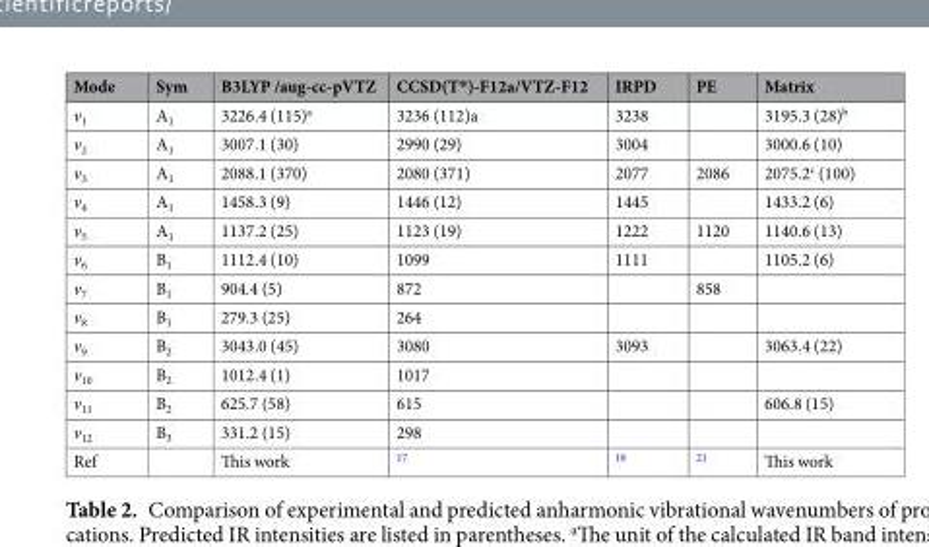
<table><thead><tr><td>Mode</td><td>Sym</td><td>B3LYP /aug-cc-pVTZ</td><td>CCSD(T*)-F12a/VTZ-F12</td><td>IRPD</td><td>PE</td><td>Matrix</td></tr></thead><tbody><tr><td>v<sub>1</sub></td><td>A<sub>1</sub></td><td>3226.4 (115)<sup>a</sup></td><td>3236 (112)a</td><td>3238</td><td></td><td>3195.3 (28)<sup>b</sup></td></tr><tr><td>v<sub>2</sub></td><td>A<sub>1</sub></td><td>3007.1 (30)</td><td>2990 (29)</td><td>3004</td><td></td><td>3000.6 (10)</td></tr><tr><td>v<sub>3</sub></td><td>A<sub>1</sub></td><td>2088.1 (370)</td><td>2080 (371)</td><td>2077</td><td>2086</td><td>2075.2<sup>c</sup> (100)</td></tr><tr><td>v<sub>4</sub></td><td>A<sub>1</sub></td><td>1458.3 (9)</td><td>1446 (12)</td><td>1445</td><td></td><td>1433.2 (6)</td></tr><tr><td>v<sub>5</sub></td><td>A<sub>1</sub></td><td>1137.2 (25)</td><td>1123 (19)</td><td>1222</td><td>1120</td><td>1140.6 (13)</td></tr><tr><td>v<sub>6</sub></td><td>B<sub>1</sub></td><td>1112.4 (10)</td><td>1099</td><td>1111</td><td></td><td>1105.2 (6)</td></tr><tr><td>v<sub>7</sub></td><td>B<sub>1</sub></td><td>904.4 (5)</td><td>872</td><td></td><td>858</td><td></td></tr><tr><td>v<sub>8</sub></td><td>B<sub>1</sub></td><td>279.3 (25)</td><td>264</td><td></td><td></td><td></td></tr><tr><td>v<sub>9</sub></td><td>B<sub>2</sub></td><td>3043.0 (45)</td><td>3080</td><td>3093</td><td></td><td>3063.4 (22)</td></tr><tr><td>v<sub>10</sub></td><td>B<sub>2</sub></td><td>1012.4 (1)</td><td>1017</td><td></td><td></td><td></td></tr><tr><td>v<sub>11</sub></td><td>B<sub>2</sub></td><td>625.7 (58)</td><td>615</td><td></td><td></td><td>606.8 (15)</td></tr><tr><td>v<sub>12</sub></td><td>B<sub>3</sub></td><td>331.2 (15)</td><td>298</td><td></td><td></td><td></td></tr><tr><td>Ref</td><td></td><td>This work</td><td><sup>17</sup></td><td><sup>18</sup></td><td><sup>21</sup></td><td>This work</td></tr></tbody></table>